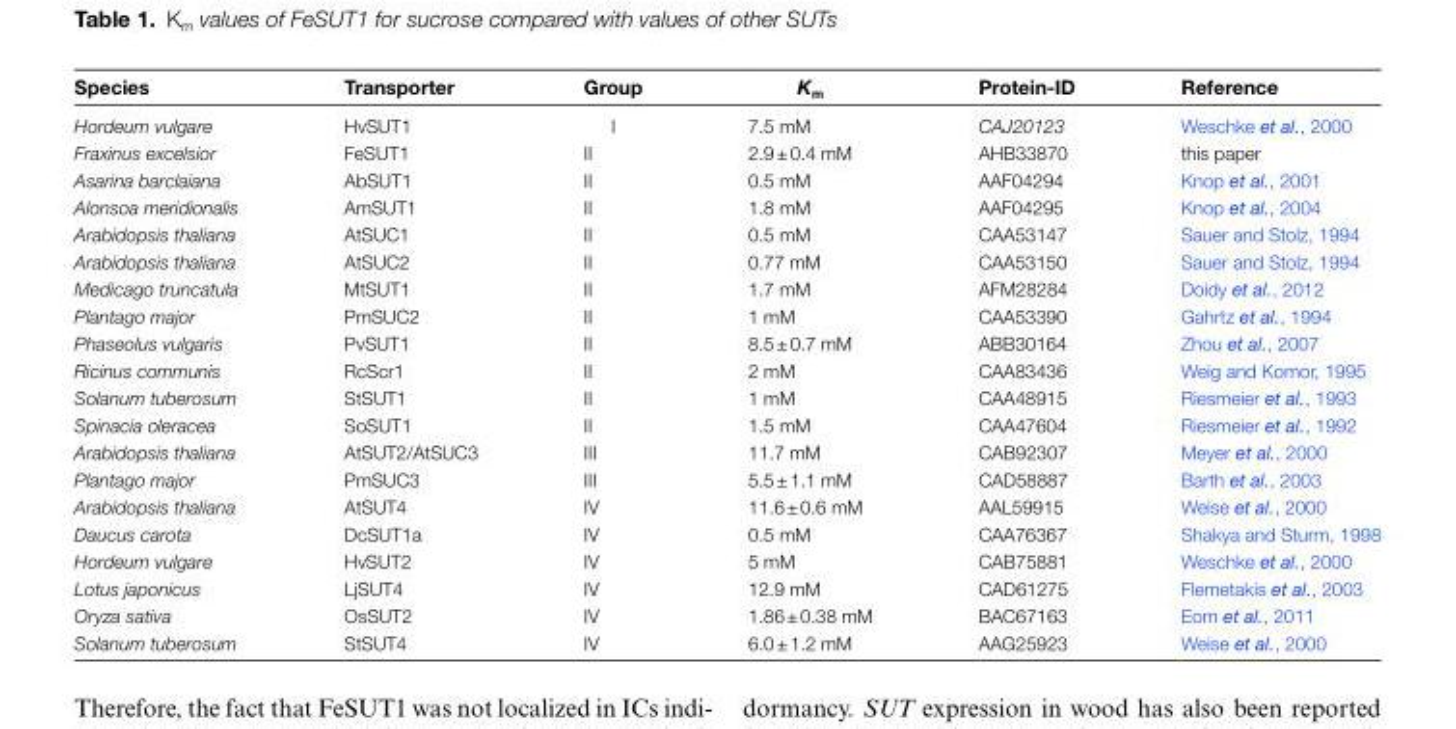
<table><thead><tr><td>Species</td><td>Transporter</td><td>Group</td><td>K<sub>m</sub></td><td>Protein-ID</td><td>Reference</td></tr></thead><tbody><tr><td>Hordeum vulgare</td><td>HvSUT1</td><td>I</td><td>7.5 mM</td><td>CAJ20123</td><td>Weschke et al., 2000</td></tr><tr><td>Fraxinus excelsior</td><td>FeSUT1</td><td>II</td><td>2.9 ± 0.4 mM</td><td>AHB33870</td><td>this paper</td></tr><tr><td>Asarina barclaiana</td><td>AbSUT1</td><td>II</td><td>0.5 mM</td><td>AAF04294</td><td>Knop et al., 2001</td></tr><tr><td>Alonsoa meridionalis</td><td>AmSUT1</td><td>II</td><td>1.8 mM</td><td>AAF04295</td><td>Knop et al., 2004</td></tr><tr><td>Arabidopsis thaliana</td><td>AtSUC1</td><td>II</td><td>0.5 mM</td><td>CAA53147</td><td>Sauer and Stolz, 1994</td></tr><tr><td>Arabidopsis thaliana</td><td>AtSUC2</td><td>II</td><td>0.77 mM</td><td>CAA53150</td><td>Sauer and Stolz, 1994</td></tr><tr><td>Medicago truncatula</td><td>MtSUT1</td><td>II</td><td>1.7 mM</td><td>AFM28284</td><td>Doidy et al., 2012</td></tr><tr><td>Plantago major</td><td>PmSUC2</td><td>II</td><td>1 mM</td><td>CAA53390</td><td>Gahrtz et al., 1994</td></tr><tr><td>Phaseolus vulgaris</td><td>PvSUT1</td><td>II</td><td>8.5 ± 0.7 mM</td><td>ABB30164</td><td>Zhou et al., 2007</td></tr><tr><td>Ricinus communis</td><td>RcScr1</td><td>II</td><td>2 mM</td><td>CAA83436</td><td>Weig and Komor, 1995</td></tr><tr><td>Solanum tuberosum</td><td>StSUT1</td><td>II</td><td>1 mM</td><td>CAA48915</td><td>Riesmeier et al., 1993</td></tr><tr><td>Spinacia oleracea</td><td>SoSUT1</td><td>II</td><td>1.5 mM</td><td>CAA47604</td><td>Riesmeier et al., 1992</td></tr><tr><td>Arabidopsis thaliana</td><td>AtSUT2/AtSUC3</td><td>III</td><td>11.7 mM</td><td>CAB92307</td><td>Meyer et al., 2000</td></tr><tr><td>Plantago major</td><td>PmSUC3</td><td>III</td><td>5.5 ± 1.1 mM</td><td>CAD58887</td><td>Barth et al., 2003</td></tr><tr><td>Arabidopsis thaliana</td><td>AtSUT4</td><td>IV</td><td>11.6 ± 0.6 mM</td><td>AAL59915</td><td>Weise et al., 2000</td></tr><tr><td>Daucus carota</td><td>DcSUT1a</td><td>IV</td><td>0.5 mM</td><td>CAA76367</td><td>Shakya and Sturm, 1998</td></tr><tr><td>Hordeum vulgare</td><td>HvSUT2</td><td>IV</td><td>5 mM</td><td>CAB75881</td><td>Weschke et al., 2000</td></tr><tr><td>Lotus japonicus</td><td>LjSUT4</td><td>IV</td><td>12.9 mM</td><td>CAD61275</td><td>Flemetakis et al., 2003</td></tr><tr><td>Oryza sativa</td><td>OsSUT2</td><td>IV</td><td>1.86 ± 0.38 mM</td><td>BAC67163</td><td>Eom et al., 2011</td></tr><tr><td>Solanum tuberosum</td><td>StSUT4</td><td>IV</td><td>6.0 ± 1.2 mM</td><td>AAG25923</td><td>Weise et al., 2000</td></tr></tbody></table>